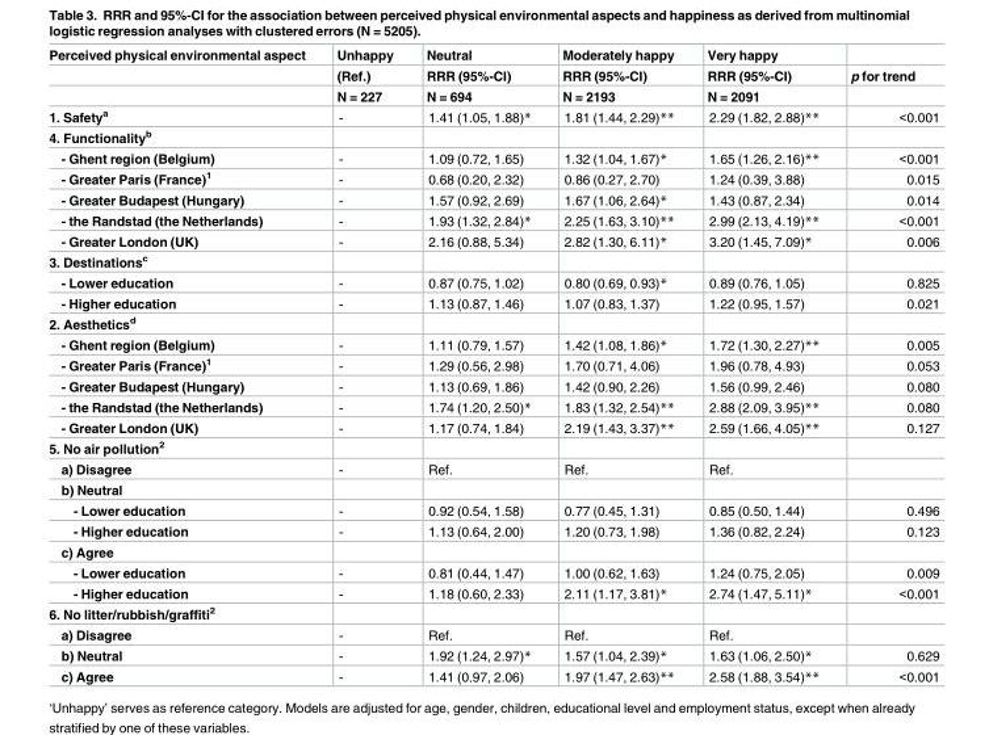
<table><thead><tr><td rowspan="3">Perceived physical environmental aspect</td><td rowspan="3">Unhappy (Ref.) N = 227</td><td rowspan="3">Neutral RRR (95%-CI) N = 694</td><td rowspan="3">Moderately happy RRR (95%-CI) N = 2193</td><td rowspan="3">Very happy RRR (95%-CI) N = 2091</td><td rowspan="3">p for trend</td></tr><tr></tr><tr></tr></thead><tbody><tr><td>1. Safety<sup>a</sup></td><td>-</td><td>1.41 (1.05, 1.88)*</td><td>1.81 (1.44, 2.29)**</td><td>2.29 (1.82, 2.88)**</td><td>&lt;0.001</td></tr><tr><td colspan="6">4. Functionality<sup>b</sup></td></tr><tr><td>- Ghent region (Belgium)</td><td>-</td><td>1.09 (0.72, 1.65)</td><td>1.32 (1.04, 1.67)*</td><td>1.65 (1.26, 2.16)**</td><td>&lt;0.001</td></tr><tr><td>- Greater Paris (France)<sup>1</sup></td><td>-</td><td>0.68 (0.20, 2.32)</td><td>0.86 (0.27, 2.70)</td><td>1.24 (0.39, 3.88)</td><td>0.015</td></tr><tr><td>- Greater Budapest (Hungary)</td><td>-</td><td>1.57 (0.92, 2.69)</td><td>1.67 (1.06, 2.64)*</td><td>1.43 (0.87, 2.34)</td><td>0.014</td></tr><tr><td>- the Randstad (the Netherlands)</td><td>-</td><td>1.93 (1.32, 2.84)*</td><td>2.25 (1.63, 3.10)**</td><td>2.99 (2.13, 4.19)**</td><td>&lt;0.001</td></tr><tr><td>- Greater London (UK)</td><td>-</td><td>2.16 (0.88, 5.34)</td><td>2.82 (1.30, 6.11)*</td><td>3.20 (1.45, 7.09)*</td><td>0.006</td></tr><tr><td colspan="6">3. Destinations<sup>c</sup></td></tr><tr><td>- Lower education</td><td>-</td><td>0.87 (0.75, 1.02)</td><td>0.80 (0.69, 0.93)*</td><td>0.89 (0.76, 1.05)</td><td>0.825</td></tr><tr><td>- Higher education</td><td>-</td><td>1.13 (0.87, 1.46)</td><td>1.07 (0.83, 1.37)</td><td>1.22 (0.95, 1.57)</td><td>0.021</td></tr><tr><td colspan="6">2. Aesthetics<sup>d</sup></td></tr><tr><td>- Ghent region (Belgium)</td><td>-</td><td>1.11 (0.79, 1.57)</td><td>1.42 (1.08, 1.86)*</td><td>1.72 (1.30, 2.27)**</td><td>0.005</td></tr><tr><td>- Greater Paris (France)<sup>1</sup></td><td>-</td><td>1.29 (0.56, 2.98)</td><td>1.70 (0.71, 4.06)</td><td>1.96 (0.78, 4.93)</td><td>0.053</td></tr><tr><td>- Greater Budapest (Hungary)</td><td>-</td><td>1.13 (0.69, 1.86)</td><td>1.42 (0.90, 2.26)</td><td>1.56 (0.99, 2.46)</td><td>0.080</td></tr><tr><td>- the Randstad (the Netherlands)</td><td>-</td><td>1.74 (1.20, 2.50)*</td><td>1.83 (1.32, 2.54)**</td><td>2.88 (2.09, 3.95)**</td><td>0.080</td></tr><tr><td>- Greater London (UK)</td><td>-</td><td>1.17 (0.74, 1.84)</td><td>2.19 (1.43, 3.37)**</td><td>2.59 (1.66, 4.05)**</td><td>0.127</td></tr><tr><td colspan="6">5. No air pollution<sup>2</sup></td></tr><tr><td>a) Disagree</td><td>-</td><td>Ref.</td><td>Ref.</td><td>Ref.</td><td></td></tr><tr><td colspan="6">b) Neutral</td></tr><tr><td>- Lower education</td><td>-</td><td>0.92 (0.54, 1.58)</td><td>0.77 (0.45, 1.31)</td><td>0.85 (0.50, 1.44)</td><td>0.496</td></tr><tr><td>- Higher education</td><td>-</td><td>1.13 (0.64, 2.00)</td><td>1.20 (0.73, 1.98)</td><td>1.36 (0.82, 2.24)</td><td>0.123</td></tr><tr><td colspan="6">c) Agree</td></tr><tr><td>- Lower education</td><td>-</td><td>0.81 (0.44, 1.47)</td><td>1.00 (0.62, 1.63)</td><td>1.24 (0.75, 2.05)</td><td>0.009</td></tr><tr><td>- Higher education</td><td>-</td><td>1.18 (0.60, 2.33)</td><td>2.11 (1.17, 3.81)*</td><td>2.74 (1.47, 5.11)*</td><td>&lt;0.001</td></tr><tr><td colspan="6">6. No litter/rubbish/graffiti<sup>2</sup></td></tr><tr><td>a) Disagree</td><td>-</td><td>Ref.</td><td>Ref.</td><td>Ref.</td><td></td></tr><tr><td>b) Neutral</td><td>-</td><td>1.92 (1.24, 2.97)*</td><td>1.57 (1.04, 2.39)*</td><td>1.63 (1.06, 2.50)*</td><td>0.629</td></tr><tr><td>c) Agree</td><td>-</td><td>1.41 (0.97, 2.06)</td><td>1.97 (1.47, 2.63)**</td><td>2.58 (1.88, 3.54)**</td><td>&lt;0.001</td></tr></tbody></table>